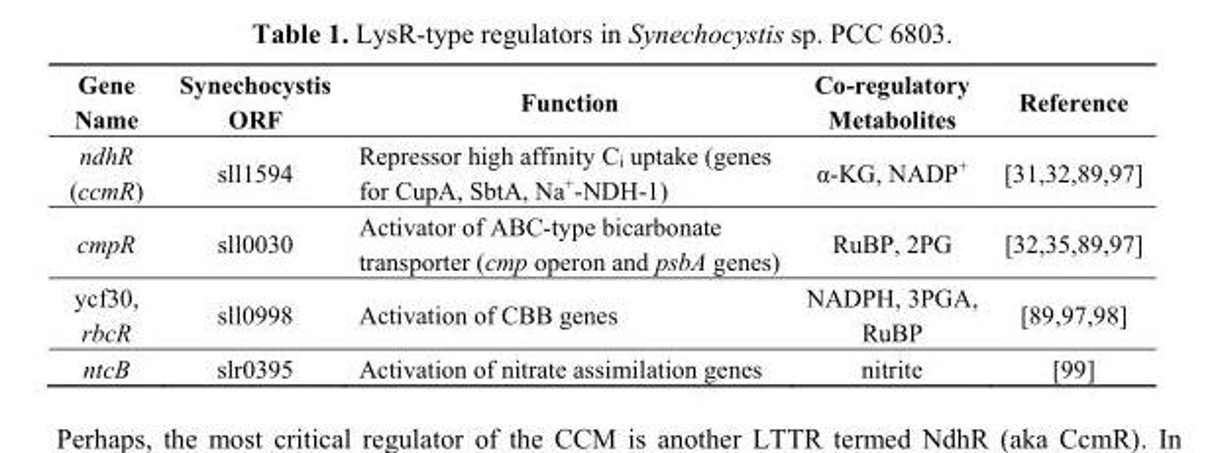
<table><thead><tr><td>Gene Name</td><td>Synechocystis ORF</td><td>Function</td><td>Co-regulatory Metabolites</td><td>Reference</td></tr></thead><tbody><tr><td>ndhR (ccmR)</td><td>sll1594</td><td>Repressor high affinity C<sub>i</sub> uptake (genes for CupA, SbtA, Na<sup>+</sup>-NDH-1)</td><td>α-KG, NADP<sup>+</sup></td><td>[31,32,89,97]</td></tr><tr><td>cmpR</td><td>sll0030</td><td>Activator of ABC-type bicarbonate transporter (cmp operon and psbA genes)</td><td>RuBP, 2PG</td><td>[32,35,89,97]</td></tr><tr><td>ycf30, rbcR</td><td>sll0998</td><td>Activation of CBB genes</td><td>NADPH, 3PGA, RuBP</td><td>[89,97,98]</td></tr><tr><td>ntcB</td><td>slr0395</td><td>Activation of nitrate assimilation genes</td><td>nitrite</td><td>[99]</td></tr></tbody></table>